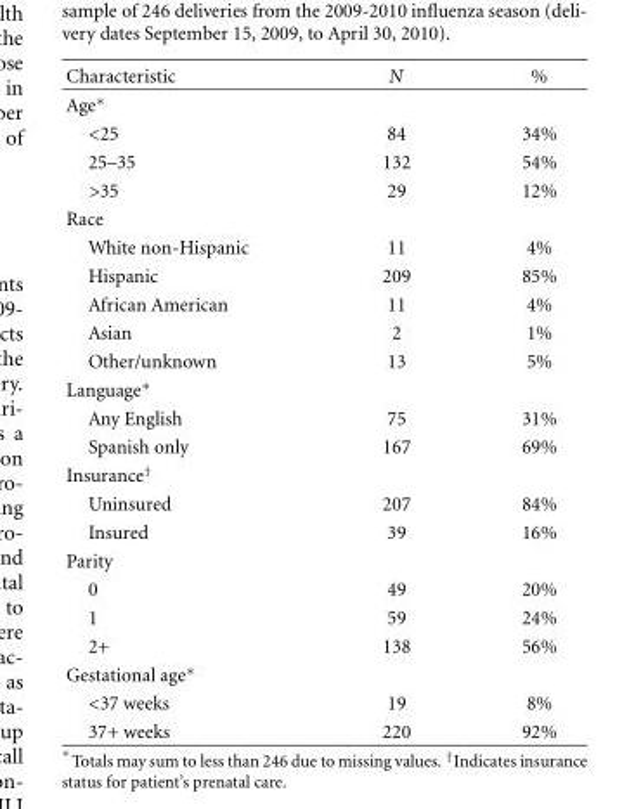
<table><thead><tr><td>Characteristic</td><td>N</td><td>%</td></tr></thead><tbody><tr><td colspan="3">Age∗</td></tr><tr><td>&lt;25</td><td>84</td><td>34%</td></tr><tr><td>25–35</td><td>132</td><td>54%</td></tr><tr><td>&gt;35</td><td>29</td><td>12%</td></tr><tr><td colspan="3">Race</td></tr><tr><td>White non-Hispanic</td><td>11</td><td>4%</td></tr><tr><td>Hispanic</td><td>209</td><td>85%</td></tr><tr><td>African American</td><td>11</td><td>4%</td></tr><tr><td>Asian</td><td>2</td><td>1%</td></tr><tr><td>Other/unknown</td><td>13</td><td>5%</td></tr><tr><td colspan="3">Language∗</td></tr><tr><td>Any English</td><td>75</td><td>31%</td></tr><tr><td>Spanish only</td><td>167</td><td>69%</td></tr><tr><td colspan="3">Insurance<sup>†</sup></td></tr><tr><td>Uninsured</td><td>207</td><td>84%</td></tr><tr><td>Insured</td><td>39</td><td>16%</td></tr><tr><td colspan="3">Parity</td></tr><tr><td>0</td><td>49</td><td>20%</td></tr><tr><td>1</td><td>59</td><td>24%</td></tr><tr><td>2+</td><td>138</td><td>56%</td></tr><tr><td colspan="3">Gestational age∗</td></tr><tr><td>&lt;37 weeks</td><td>19</td><td>8%</td></tr><tr><td>37+ weeks</td><td>220</td><td>92%</td></tr></tbody></table>